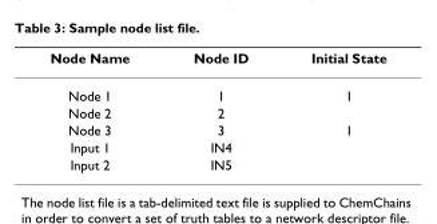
<table><thead><tr><td>Node Name</td><td>Node ID</td><td>Initial State</td></tr></thead><tbody><tr><td>Node 1</td><td>1</td><td>1</td></tr><tr><td>Node 2</td><td>2</td><td></td></tr><tr><td>Node 3</td><td>3</td><td>1</td></tr><tr><td>Input 1</td><td>IN4</td><td></td></tr><tr><td>Input 2</td><td>IN5</td><td></td></tr></tbody></table>